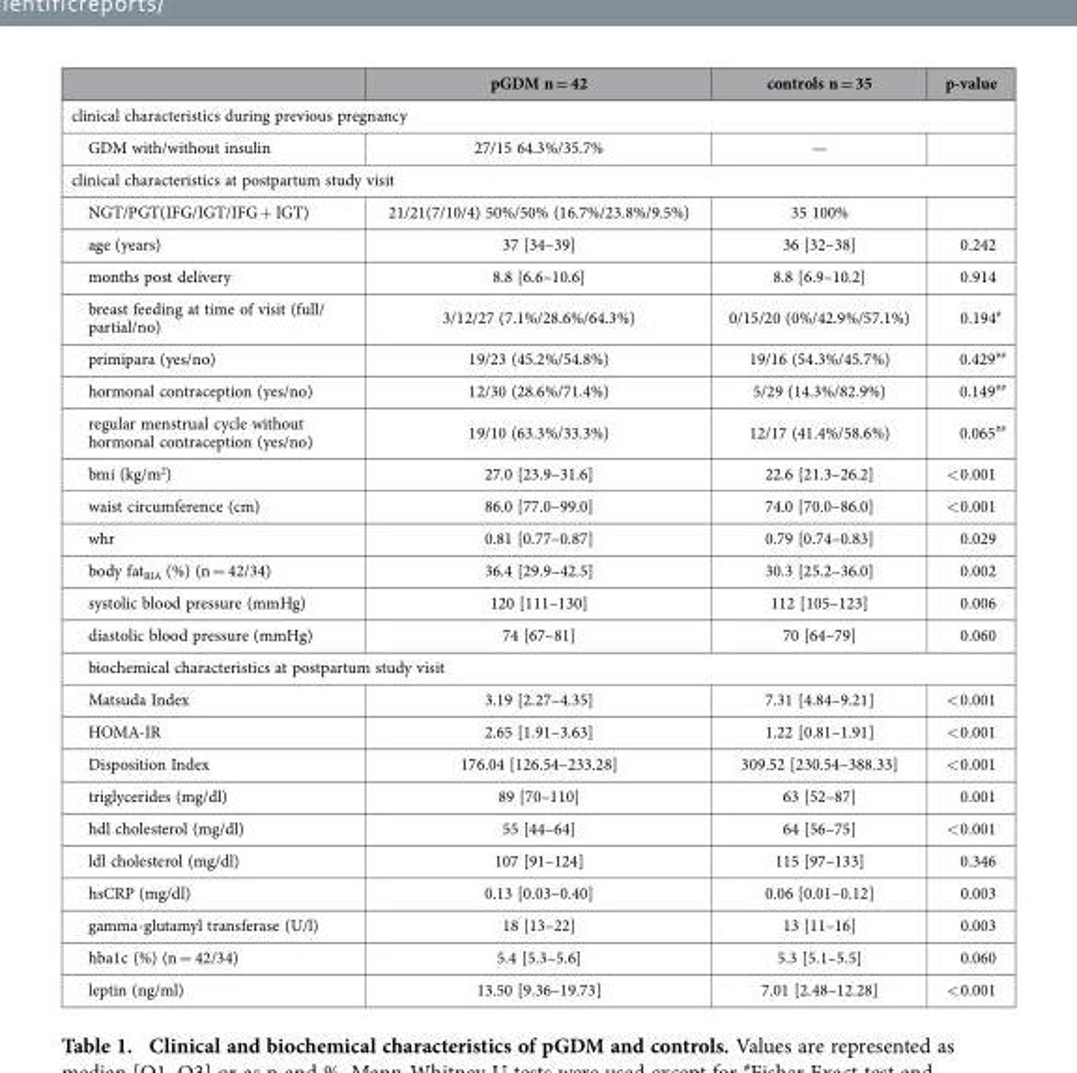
<table><thead><tr><td></td><td>pGDM n = 42</td><td>controls n = 35</td><td>p-value</td></tr></thead><tbody><tr><td colspan="4">clinical characteristics during previous pregnancy</td></tr><tr><td>GDM with/without insulin</td><td>27/15 64.3%/35.7%</td><td>—</td><td></td></tr><tr><td colspan="4">clinical characteristics at postpartum study visit</td></tr><tr><td>NGT/PGT(IFG/IGT/IFG + IGT)</td><td>21/21(7/10/4) 50%/50% (16.7%/23.8%/9.5%)</td><td>35 100%</td><td></td></tr><tr><td>age (years)</td><td>37 [34–39]</td><td>36 [32–38]</td><td>0.242</td></tr><tr><td>months post delivery</td><td>8.8 [6.6–10.6]</td><td>8.8 [6.9–10.2]</td><td>0.914</td></tr><tr><td>breast feeding at time of visit (full/ partial/no)</td><td>3/12/27 (7.1%/28.6%/64.3%)</td><td>0/15/20 (0%/42.9%/57.1%)</td><td>0.194<sup>#</sup></td></tr><tr><td>primipara (yes/no)</td><td>19/23 (45.2%/54.8%)</td><td>19/16 (54.3%/45.7%)</td><td>0.429<sup>##</sup></td></tr><tr><td>hormonal contraception (yes/no)</td><td>12/30 (28.6%/71.4%)</td><td>5/29 (14.3%/82.9%)</td><td>0.149<sup>##</sup></td></tr><tr><td>regular menstrual cycle without hormonal contraception (yes/no)</td><td>19/10 (63.3%/33.3%)</td><td>12/17 (41.4%/58.6%)</td><td>0.065<sup>##</sup></td></tr><tr><td>bmi (kg/m<sup>2</sup>)</td><td>27.0 [23.9–31.6]</td><td>22.6 [21.3–26.2]</td><td>&lt; 0.001</td></tr><tr><td>waist circumference (cm)</td><td>86.0 [77.0–99.0]</td><td>74.0 [70.0–86.0]</td><td>&lt; 0.001</td></tr><tr><td>whr</td><td>0.81 [0.77–0.87]</td><td>0.79 [0.74–0.83]</td><td>0.029</td></tr><tr><td>body fat<sub>BIA</sub> (%) (n = 42/34)</td><td>36.4 [29.9–42.5]</td><td>30.3 [25.2–36.0]</td><td>0.002</td></tr><tr><td>systolic blood pressure (mmHg)</td><td>120 [111–130]</td><td>112 [105–123]</td><td>0.006</td></tr><tr><td>diastolic blood pressure (mmHg)</td><td>74 [67–81]</td><td>70 [64–79]</td><td>0.060</td></tr><tr><td colspan="4">biochemical characteristics at postpartum study visit</td></tr><tr><td>Matsuda Index</td><td>3.19 [2.27–4.35]</td><td>7.31 [4.84–9.21]</td><td>&lt; 0.001</td></tr><tr><td>HOMA-IR</td><td>2.65 [1.91–3.63]</td><td>1.22 [0.81–1.91]</td><td>&lt; 0.001</td></tr><tr><td>Disposition Index</td><td>176.04 [126.54–233.28]</td><td>309.52 [230.54–388.33]</td><td>&lt; 0.001</td></tr><tr><td>triglycerides (mg/dl)</td><td>89 [70–110]</td><td>63 [52–87]</td><td>0.001</td></tr><tr><td>hdl cholesterol (mg/dl)</td><td>55 [44–64]</td><td>64 [56–75]</td><td>&lt; 0.001</td></tr><tr><td>ldl cholesterol (mg/dl)</td><td>107 [91–124]</td><td>115 [97–133]</td><td>0.346</td></tr><tr><td>hsCRP (mg/dl)</td><td>0.13 [0.03–0.40]</td><td>0.06 [0.01–0.12]</td><td>0.003</td></tr><tr><td>gamma-glutamyl transferase (U/l)</td><td>18 [13–22]</td><td>13 [11–16]</td><td>0.003</td></tr><tr><td>hba1c (%) (n = 42/34)</td><td>5.4 [5.3–5.6]</td><td>5.3 [5.1–5.5]</td><td>0.060</td></tr><tr><td>leptin (ng/ml)</td><td>13.50 [9.36–19.73]</td><td>7.01 [2.48–12.28]</td><td>&lt; 0.001</td></tr></tbody></table>